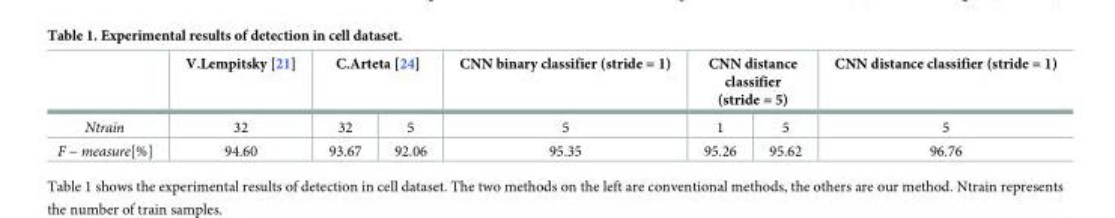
<table><thead><tr><td rowspan="2">Ntrain</td><td rowspan="2">V.Lempitsky [21] 32</td><td colspan="2">C.Arteta [24]</td><td rowspan="2">CNN binary classifier (stride = 1) 5</td><td colspan="2">CNN distance classifier (stride = 5)</td><td rowspan="2">CNN distance classifier (stride = 1) 5</td></tr><tr><td>32</td><td>5</td><td>1</td><td>5</td></tr></thead><tbody><tr><td>F − measure[%]</td><td>94.60</td><td>93.67</td><td>92.06</td><td>95.35</td><td>95.26</td><td>95.62</td><td>96.76</td></tr></tbody></table>